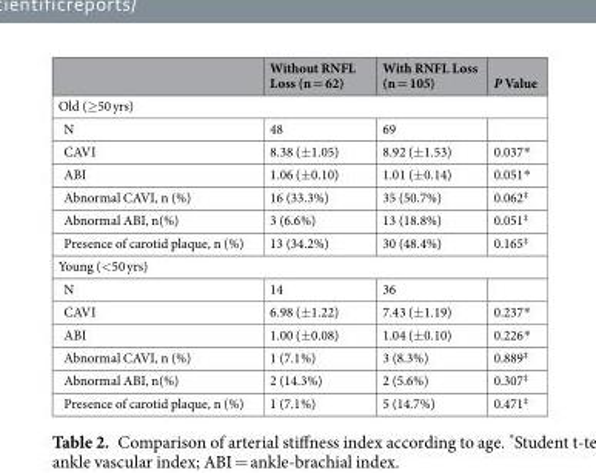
<table><thead><tr><td></td><td>Without RNFL Loss (n = 62)</td><td>With RNFL Loss (n = 105)</td><td>P Value</td></tr></thead><tbody><tr><td colspan="4">Old (≥50 yrs)</td></tr><tr><td>N</td><td>48</td><td>69</td><td></td></tr><tr><td>CAVI</td><td>8.38 (±1.05)</td><td>8.92 (±1.53)</td><td>0.037*</td></tr><tr><td>ABI</td><td>1.06 (±0.10)</td><td>1.01 (±0.14)</td><td>0.051*</td></tr><tr><td>Abnormal CAVI, n (%)</td><td>16 (33.3%)</td><td>35 (50.7%)</td><td>0.062<sup>‡</sup></td></tr><tr><td>Abnormal ABI, n(%)</td><td>3 (6.6%)</td><td>13 (18.8%)</td><td>0.051<sup>‡</sup></td></tr><tr><td>Presence of carotid plaque, n (%)</td><td>13 (34.2%)</td><td>30 (48.4%)</td><td>0.165<sup>‡</sup></td></tr><tr><td colspan="4">Young (&lt;50 yrs)</td></tr><tr><td>N</td><td>14</td><td>36</td><td></td></tr><tr><td>CAVI</td><td>6.98 (±1.22)</td><td>7.43 (±1.19)</td><td>0.237*</td></tr><tr><td>ABI</td><td>1.00 (±0.08)</td><td>1.04 (±0.10)</td><td>0.226*</td></tr><tr><td>Abnormal CAVI, n (%)</td><td>1 (7.1%)</td><td>3 (8.3%)</td><td>0.889<sup>‡</sup></td></tr><tr><td>Abnormal ABI, n(%)</td><td>2 (14.3%)</td><td>2 (5.6%)</td><td>0.307<sup>‡</sup></td></tr><tr><td>Presence of carotid plaque, n (%)</td><td>1 (7.1%)</td><td>5 (14.7%)</td><td>0.471<sup>‡</sup></td></tr></tbody></table>